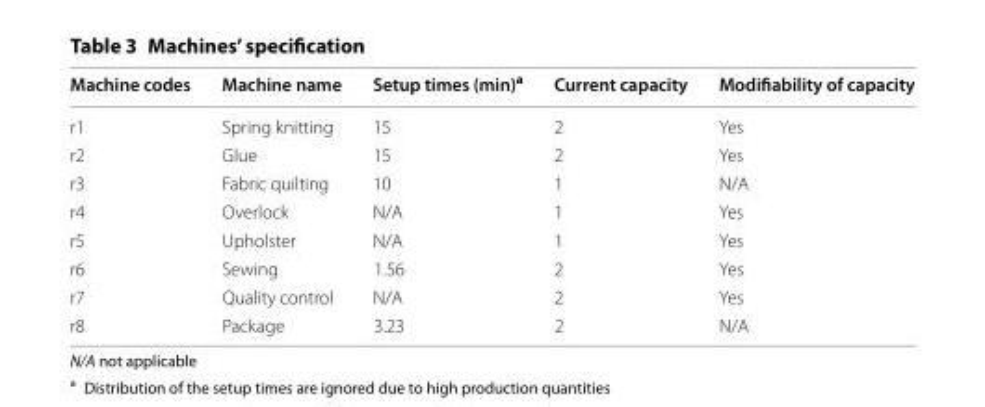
<table><thead><tr><td>Machine codes</td><td>Machine name</td><td>Setup times (min)<sup>a</sup></td><td>Current capacity</td><td>Modifiability of capacity</td></tr></thead><tbody><tr><td>r1</td><td>Spring knitting</td><td>15</td><td>2</td><td>Yes</td></tr><tr><td>r2</td><td>Glue</td><td>15</td><td>2</td><td>Yes</td></tr><tr><td>r3</td><td>Fabric quilting</td><td>10</td><td>1</td><td>N/A</td></tr><tr><td>r4</td><td>Overlock</td><td>N/A</td><td>1</td><td>Yes</td></tr><tr><td>r5</td><td>Upholster</td><td>N/A</td><td>1</td><td>Yes</td></tr><tr><td>r6</td><td>Sewing</td><td>1.56</td><td>2</td><td>Yes</td></tr><tr><td>r7</td><td>Quality control</td><td>N/A</td><td>2</td><td>Yes</td></tr><tr><td>r8</td><td>Package</td><td>3.23</td><td>2</td><td>N/A</td></tr></tbody></table>